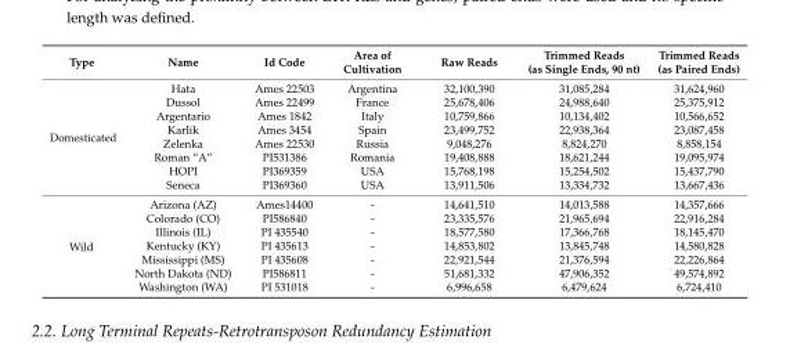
<table><thead><tr><td>Type</td><td>Name</td><td>Id Code</td><td>Area of Cultivation</td><td>Raw Reads</td><td>Trimmed Reads (as Single Ends, 90 nt)</td><td>Trimmed Reads (as Paired Ends)</td></tr></thead><tbody><tr><td rowspan="8">Domesticated</td><td>Hata</td><td>Ames 22503</td><td>Argentina</td><td>32,100,390</td><td>31,085,284</td><td>31,624,960</td></tr><tr><td>Dussol</td><td>Ames 22499</td><td>France</td><td>25,678,406</td><td>24,988,640</td><td>25,375,912</td></tr><tr><td>Argentario</td><td>Ames 1842</td><td>Italy</td><td>10,759,866</td><td>10,134,402</td><td>10,566,652</td></tr><tr><td>Karlik</td><td>Ames 3454</td><td>Spain</td><td>23,499,752</td><td>22,938,364</td><td>23,087,458</td></tr><tr><td>Zelenka</td><td>Ames 22530</td><td>Russia</td><td>9,048,276</td><td>8,824,270</td><td>8,858,154</td></tr><tr><td>Roman “A”</td><td>PI531386</td><td>Romania</td><td>19,408,888</td><td>18,621,244</td><td>19,095,974</td></tr><tr><td>HOPI</td><td>PI369359</td><td>USA</td><td>15,768,198</td><td>15,254,502</td><td>15,437,790</td></tr><tr><td>Seneca</td><td>PI369360</td><td>USA</td><td>13,911,506</td><td>13,334,732</td><td>13,667,436</td></tr><tr><td rowspan="7">Wild</td><td>Arizona (AZ)</td><td>Ames14400</td><td>-</td><td>14,641,510</td><td>14,013,588</td><td>14,357,666</td></tr><tr><td>Colorado (CO)</td><td>PI586840</td><td>-</td><td>23,335,576</td><td>21,965,694</td><td>22,916,284</td></tr><tr><td>Illinois (IL)</td><td>PI 435540</td><td>-</td><td>18,577,580</td><td>17,366,768</td><td>18,145,470</td></tr><tr><td>Kentucky (KY)</td><td>PI 435613</td><td>-</td><td>14,853,802</td><td>13,845,748</td><td>14,580,828</td></tr><tr><td>Mississippi (MS)</td><td>PI 435608</td><td>-</td><td>22,921,544</td><td>21,376,594</td><td>22,226,864</td></tr><tr><td>North Dakota (ND)</td><td>PI586811</td><td>-</td><td>51,681,332</td><td>47,906,352</td><td>49,574,892</td></tr><tr><td>Washington (WA)</td><td>PI 531018</td><td>-</td><td>6,996,658</td><td>6,479,624</td><td>6,724,410</td></tr></tbody></table>